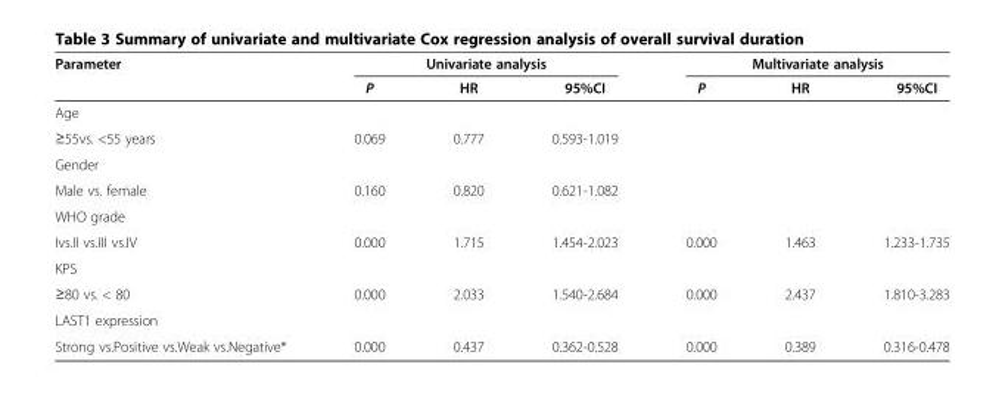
<table><thead><tr><td rowspan="2">Parameter</td><td colspan="3">Univariate analysis</td><td colspan="3">Multivariate analysis</td></tr><tr><td>P</td><td>HR</td><td>95%CI</td><td>P</td><td>HR</td><td>95%CI</td></tr></thead><tbody><tr><td colspan="7">Age</td></tr><tr><td>≥55vs. &lt;55 years</td><td>0.069</td><td>0.777</td><td>0.593-1.019</td><td></td><td></td><td></td></tr><tr><td colspan="7">Gender</td></tr><tr><td>Male vs. female</td><td>0.160</td><td>0.820</td><td>0.621-1.082</td><td></td><td></td><td></td></tr><tr><td colspan="7">WHO grade</td></tr><tr><td>Ivs.II vs.III vs.IV</td><td>0.000</td><td>1.715</td><td>1.454-2.023</td><td>0.000</td><td>1.463</td><td>1.233-1.735</td></tr><tr><td colspan="7">KPS</td></tr><tr><td>≥80 vs. &lt; 80</td><td>0.000</td><td>2.033</td><td>1.540-2.684</td><td>0.000</td><td>2.437</td><td>1.810-3.283</td></tr><tr><td colspan="7">LAST1 expression</td></tr><tr><td>Strong vs.Positive vs.Weak vs.Negative*</td><td>0.000</td><td>0.437</td><td>0.362-0.528</td><td>0.000</td><td>0.389</td><td>0.316-0.478</td></tr></tbody></table>